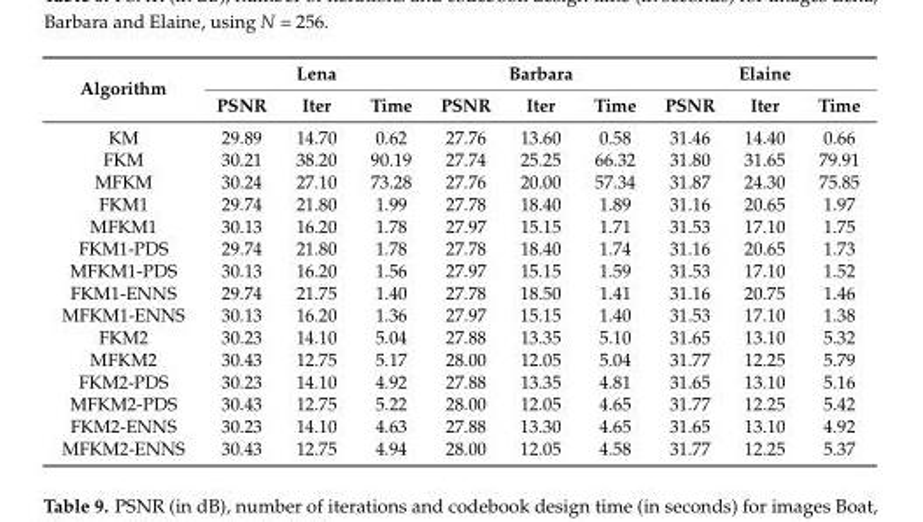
<table><thead><tr><td rowspan="2">Algorithm</td><td colspan="3">Lena</td><td colspan="3">Barbara</td><td colspan="3">Elaine</td></tr><tr><td>PSNR</td><td>Iter</td><td>Time</td><td>PSNR</td><td>Iter</td><td>Time</td><td>PSNR</td><td>Iter</td><td>Time</td></tr></thead><tbody><tr><td>KM</td><td>29.89</td><td>14.70</td><td>0.62</td><td>27.76</td><td>13.60</td><td>0.58</td><td>31.46</td><td>14.40</td><td>0.66</td></tr><tr><td>FKM</td><td>30.21</td><td>38.20</td><td>90.19</td><td>27.74</td><td>25.25</td><td>66.32</td><td>31.80</td><td>31.65</td><td>79.91</td></tr><tr><td>MFKM</td><td>30.24</td><td>27.10</td><td>73.28</td><td>27.76</td><td>20.00</td><td>57.34</td><td>31.87</td><td>24.30</td><td>75.85</td></tr><tr><td>FKM1</td><td>29.74</td><td>21.80</td><td>1.99</td><td>27.78</td><td>18.40</td><td>1.89</td><td>31.16</td><td>20.65</td><td>1.97</td></tr><tr><td>MFKM1</td><td>30.13</td><td>16.20</td><td>1.78</td><td>27.97</td><td>15.15</td><td>1.71</td><td>31.53</td><td>17.10</td><td>1.75</td></tr><tr><td>FKM1-PDS</td><td>29.74</td><td>21.80</td><td>1.78</td><td>27.78</td><td>18.40</td><td>1.74</td><td>31.16</td><td>20.65</td><td>1.73</td></tr><tr><td>MFKM1-PDS</td><td>30.13</td><td>16.20</td><td>1.56</td><td>27.97</td><td>15.15</td><td>1.59</td><td>31.53</td><td>17.10</td><td>1.52</td></tr><tr><td>FKM1-ENNS</td><td>29.74</td><td>21.75</td><td>1.40</td><td>27.78</td><td>18.50</td><td>1.41</td><td>31.16</td><td>20.75</td><td>1.46</td></tr><tr><td>MFKM1-ENNS</td><td>30.13</td><td>16.20</td><td>1.36</td><td>27.97</td><td>15.15</td><td>1.40</td><td>31.53</td><td>17.10</td><td>1.38</td></tr><tr><td>FKM2</td><td>30.23</td><td>14.10</td><td>5.04</td><td>27.88</td><td>13.35</td><td>5.10</td><td>31.65</td><td>13.10</td><td>5.32</td></tr><tr><td>MFKM2</td><td>30.43</td><td>12.75</td><td>5.17</td><td>28.00</td><td>12.05</td><td>5.04</td><td>31.77</td><td>12.25</td><td>5.79</td></tr><tr><td>FKM2-PDS</td><td>30.23</td><td>14.10</td><td>4.92</td><td>27.88</td><td>13.35</td><td>4.81</td><td>31.65</td><td>13.10</td><td>5.16</td></tr><tr><td>MFKM2-PDS</td><td>30.43</td><td>12.75</td><td>5.22</td><td>28.00</td><td>12.05</td><td>4.65</td><td>31.77</td><td>12.25</td><td>5.42</td></tr><tr><td>FKM2-ENNS</td><td>30.23</td><td>14.10</td><td>4.63</td><td>27.88</td><td>13.30</td><td>4.65</td><td>31.65</td><td>13.10</td><td>4.92</td></tr><tr><td>MFKM2-ENNS</td><td>30.43</td><td>12.75</td><td>4.94</td><td>28.00</td><td>12.05</td><td>4.58</td><td>31.77</td><td>12.25</td><td>5.37</td></tr></tbody></table>